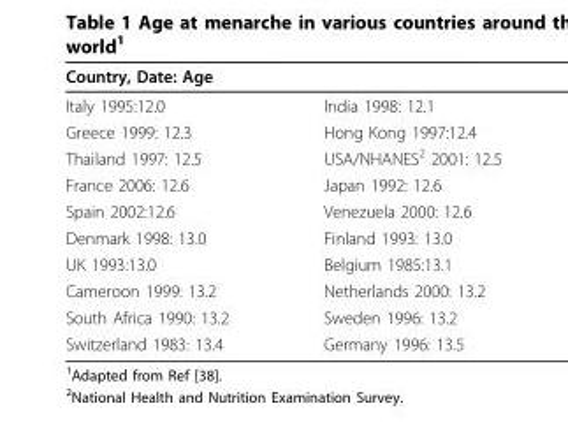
<table><thead><tr><td colspan="2">Country, Date: Age</td></tr><tr><td>Italy 1995:12.0</td><td>India 1998: 12.1</td></tr></thead><tbody><tr><td>Greece 1999: 12.3</td><td>Hong Kong 1997:12.4</td></tr><tr><td>Thailand 1997: 12.5</td><td>USA/NHANES<sup>2</sup> 2001: 12.5</td></tr><tr><td>France 2006: 12.6</td><td>Japan 1992: 12.6</td></tr><tr><td>Spain 2002:12.6</td><td>Venezuela 2000: 12.6</td></tr><tr><td>Denmark 1998: 13.0</td><td>Finland 1993: 13.0</td></tr><tr><td>UK 1993:13.0</td><td>Belgium 1985:13.1</td></tr><tr><td>Cameroon 1999: 13.2</td><td>Netherlands 2000: 13.2</td></tr><tr><td>South Africa 1990: 13.2</td><td>Sweden 1996: 13.2</td></tr><tr><td>Switzerland 1983: 13.4</td><td>Germany 1996: 13.5</td></tr></tbody></table>